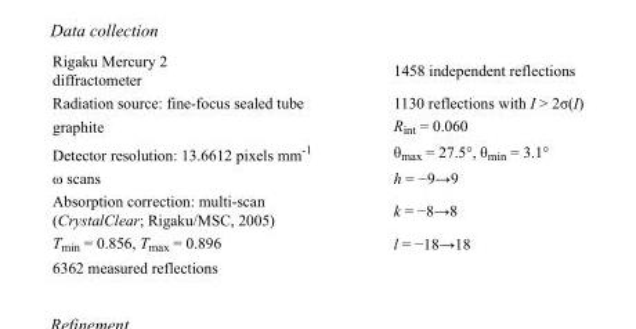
<table><tbody><tr><td>Rigaku Mercury 2 diffractometer</td><td>1458 independent reflections</td></tr><tr><td>Radiation source: fine-focus sealed tube</td><td>1130 reflections with I &gt; 2σ(I)</td></tr><tr><td>graphite</td><td>R<sub>int</sub> = 0.060</td></tr><tr><td>Detector resolution: 13.6612 pixels mm<sup>-1</sup></td><td>θ<sub>max</sub> = 27.5°, θ<sub>min</sub> = 3.1°</td></tr><tr><td>ω scans</td><td>h = −9→9</td></tr><tr><td>Absorption correction: multi-scan (CrystalClear; Rigaku/MSC, 2005)</td><td>k = −8→8</td></tr><tr><td>T<sub>min</sub> = 0.856, T<sub>max</sub> = 0.896</td><td>l = −18→18</td></tr><tr><td>6362 measured reflections</td><td></td></tr></tbody></table>